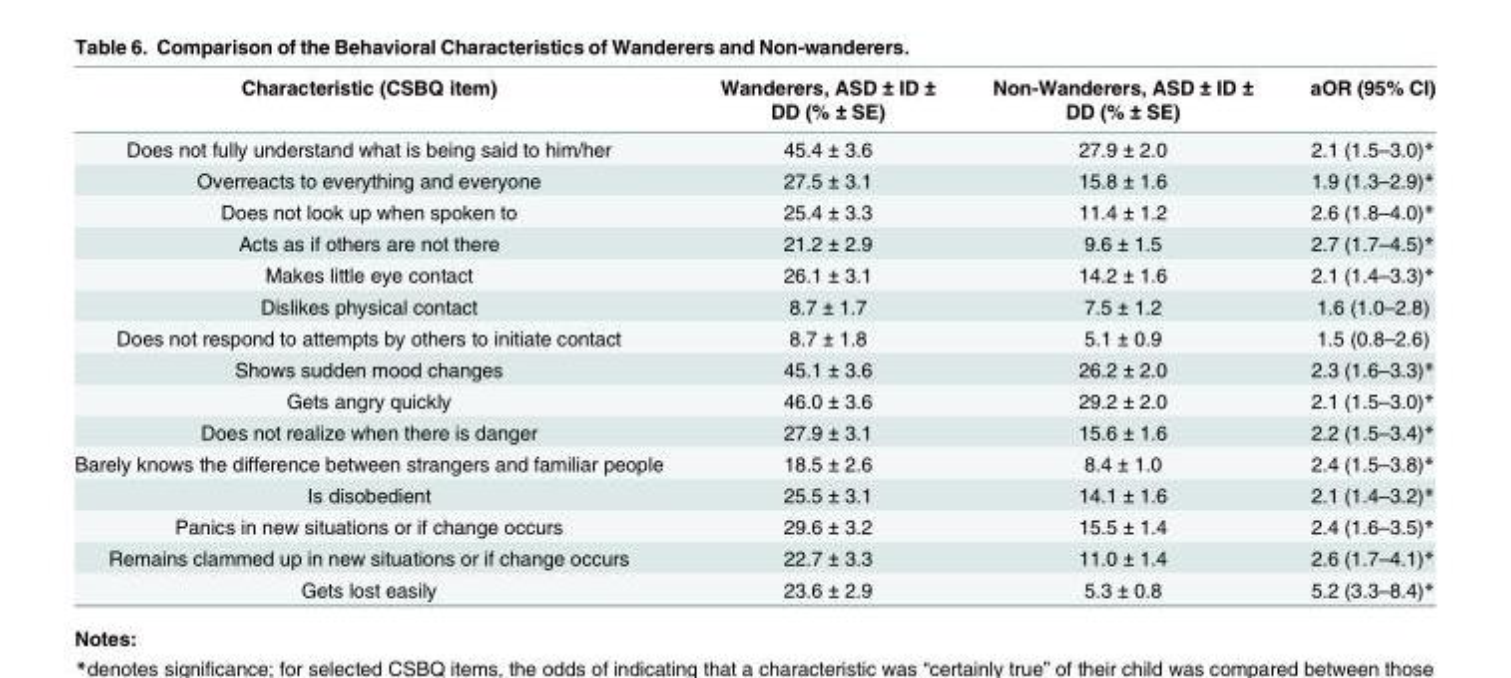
<table><thead><tr><td>Characteristic (CSBQ item)</td><td>Wanderers, ASD ± ID ± DD (% ± SE)</td><td>Non-Wanderers, ASD ± ID ± DD (% ± SE)</td><td>aOR (95% CI)</td></tr></thead><tbody><tr><td>Does not fully understand what is being said to him/her</td><td>45.4 ± 3.6</td><td>27.9 ± 2.0</td><td>2.1 (1.5–3.0)*</td></tr><tr><td>Overreacts to everything and everyone</td><td>27.5 ± 3.1</td><td>15.8 ± 1.6</td><td>1.9 (1.3–2.9)*</td></tr><tr><td>Does not look up when spoken to</td><td>25.4 ± 3.3</td><td>11.4 ± 1.2</td><td>2.6 (1.8–4.0)*</td></tr><tr><td>Acts as if others are not there</td><td>21.2 ± 2.9</td><td>9.6 ± 1.5</td><td>2.7 (1.7–4.5)*</td></tr><tr><td>Makes little eye contact</td><td>26.1 ± 3.1</td><td>14.2 ± 1.6</td><td>2.1 (1.4–3.3)*</td></tr><tr><td>Dislikes physical contact</td><td>8.7 ± 1.7</td><td>7.5 ± 1.2</td><td>1.6 (1.0–2.8)</td></tr><tr><td>Does not respond to attempts by others to initiate contact</td><td>8.7 ± 1.8</td><td>5.1 ± 0.9</td><td>1.5 (0.8–2.6)</td></tr><tr><td>Shows sudden mood changes</td><td>45.1 ± 3.6</td><td>26.2 ± 2.0</td><td>2.3 (1.6–3.3)*</td></tr><tr><td>Gets angry quickly</td><td>46.0 ± 3.6</td><td>29.2 ± 2.0</td><td>2.1 (1.5–3.0)*</td></tr><tr><td>Does not realize when there is danger</td><td>27.9 ± 3.1</td><td>15.6 ± 1.6</td><td>2.2 (1.5–3.4)*</td></tr><tr><td>Barely knows the difference between strangers and familiar people</td><td>18.5 ± 2.6</td><td>8.4 ± 1.0</td><td>2.4 (1.5–3.8)*</td></tr><tr><td>Is disobedient</td><td>25.5 ± 3.1</td><td>14.1 ± 1.6</td><td>2.1 (1.4–3.2)*</td></tr><tr><td>Panics in new situations or if change occurs</td><td>29.6 ± 3.2</td><td>15.5 ± 1.4</td><td>2.4 (1.6–3.5)*</td></tr><tr><td>Remains clammed up in new situations or if change occurs</td><td>22.7 ± 3.3</td><td>11.0 ± 1.4</td><td>2.6 (1.7–4.1)*</td></tr><tr><td>Gets lost easily</td><td>23.6 ± 2.9</td><td>5.3 ± 0.8</td><td>5.2 (3.3–8.4)*</td></tr></tbody></table>